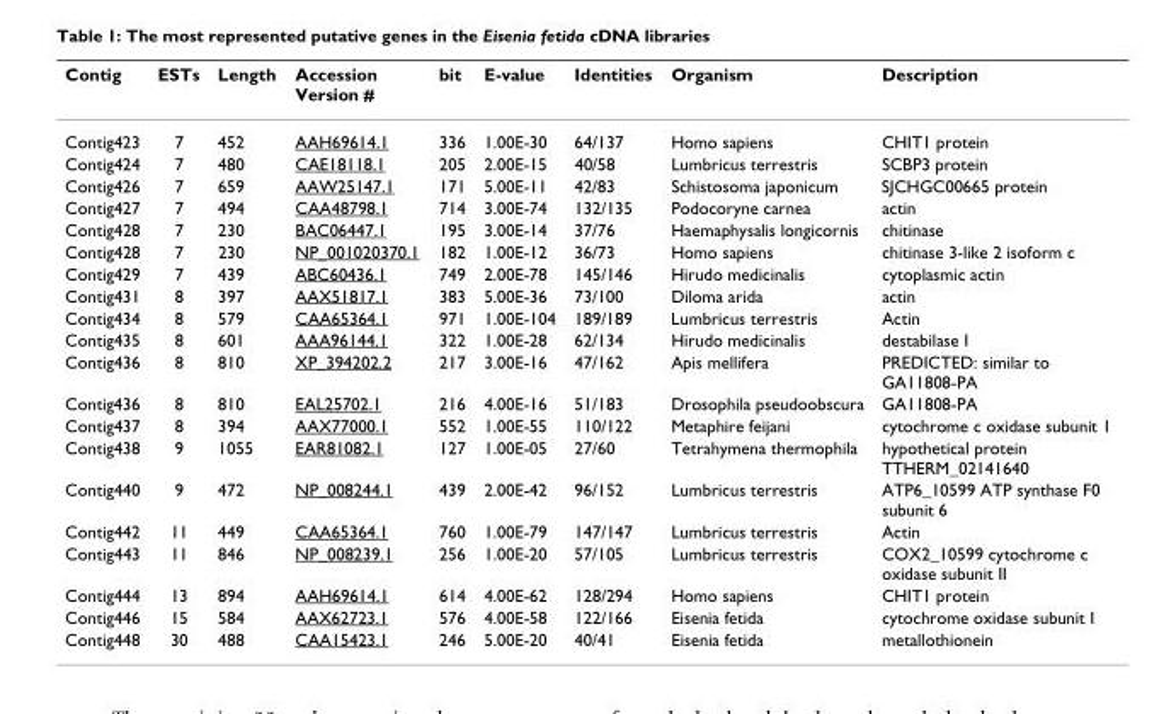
<table><thead><tr><td>Contig</td><td>ESTs</td><td>Length</td><td>Accession Version #</td><td>bit</td><td>E-value</td><td>Identities</td><td>Organism</td><td>Description</td></tr></thead><tbody><tr><td>Contig423</td><td>7</td><td>452</td><td>AAH69614.1</td><td>336</td><td>1.00E-30</td><td>64/137</td><td>Homo sapiens</td><td>CHIT1 protein</td></tr><tr><td>Contig424</td><td>7</td><td>480</td><td>CAE18118.1</td><td>205</td><td>2.00E-15</td><td>40/58</td><td>Lumbricus terrestris</td><td>SCBP3 protein</td></tr><tr><td>Contig426</td><td>7</td><td>659</td><td>AAW25147.1</td><td>171</td><td>5.00E-11</td><td>42/83</td><td>Schistosoma japonicum</td><td>SJCHGC00665 protein</td></tr><tr><td>Contig427</td><td>7</td><td>494</td><td>CAA48798.1</td><td>714</td><td>3.00E-74</td><td>132/135</td><td>Podocoryne carnea</td><td>actin</td></tr><tr><td>Contig428</td><td>7</td><td>230</td><td>BAC06447.1</td><td>195</td><td>3.00E-14</td><td>37/76</td><td>Haemaphysalis longicornis</td><td>chitinase</td></tr><tr><td>Contig428</td><td>7</td><td>230</td><td>NP_001020370.1</td><td>182</td><td>1.00E-12</td><td>36/73</td><td>Homo sapiens</td><td>chitinase 3-like 2 isoform c</td></tr><tr><td>Contig429</td><td>7</td><td>439</td><td>ABC60436.1</td><td>749</td><td>2.00E-78</td><td>145/146</td><td>Hirudo medicinalis</td><td>cytoplasmic actin</td></tr><tr><td>Contig431</td><td>8</td><td>397</td><td>AAX51817.1</td><td>383</td><td>5.00E-36</td><td>73/100</td><td>Diloma arida</td><td>actin</td></tr><tr><td>Contig434</td><td>8</td><td>579</td><td>CAA65364.1</td><td>971</td><td>1.00E-104</td><td>189/189</td><td>Lumbricus terrestris</td><td>Actin</td></tr><tr><td>Contig435</td><td>8</td><td>601</td><td>AAA96144.1</td><td>322</td><td>1.00E-28</td><td>62/134</td><td>Hirudo medicinalis</td><td>destabilase I</td></tr><tr><td>Contig436</td><td>8</td><td>810</td><td>XP_394202.2</td><td>217</td><td>3.00E-16</td><td>47/162</td><td>Apis mellifera</td><td>PREDICTED: similar to GA11808-PA</td></tr><tr><td>Contig436</td><td>8</td><td>810</td><td>EAL25702.1</td><td>216</td><td>4.00E-16</td><td>51/183</td><td>Drosophila pseudoobscura</td><td>GA11808-PA</td></tr><tr><td>Contig437</td><td>8</td><td>394</td><td>AAX77000.1</td><td>552</td><td>1.00E-55</td><td>110/122</td><td>Metaphire feijani</td><td>cytochrome c oxidase subunit 1</td></tr><tr><td>Contig438</td><td>9</td><td>1055</td><td>EAR81082.1</td><td>127</td><td>1.00E-05</td><td>27/60</td><td>Tetrahymena thermophila</td><td>hypothetical protein TTHERM_02141640</td></tr><tr><td>Contig440</td><td>9</td><td>472</td><td>NP_008244.1</td><td>439</td><td>2.00E-42</td><td>96/152</td><td>Lumbricus terrestris</td><td>ATP6_10599 ATP synthase F0 subunit 6</td></tr><tr><td>Contig442</td><td>11</td><td>449</td><td>CAA65364.1</td><td>760</td><td>1.00E-79</td><td>147/147</td><td>Lumbricus terrestris</td><td>Actin</td></tr><tr><td>Contig443</td><td>11</td><td>846</td><td>NP_008239.1</td><td>256</td><td>1.00E-20</td><td>57/105</td><td>Lumbricus terrestris</td><td>COX2_10599 cytochrome c oxidase subunit II</td></tr><tr><td>Contig444</td><td>13</td><td>894</td><td>AAH69614.1</td><td>614</td><td>4.00E-62</td><td>128/294</td><td>Homo sapiens</td><td>CHIT1 protein</td></tr><tr><td>Contig446</td><td>15</td><td>584</td><td>AAX62723.1</td><td>576</td><td>4.00E-58</td><td>122/166</td><td>Eisenia fetida</td><td>cytochrome oxidase subunit I</td></tr><tr><td>Contig448</td><td>30</td><td>488</td><td>CAA15423.1</td><td>246</td><td>5.00E-20</td><td>40/41</td><td>Eisenia fetida</td><td>metallothionein</td></tr></tbody></table>